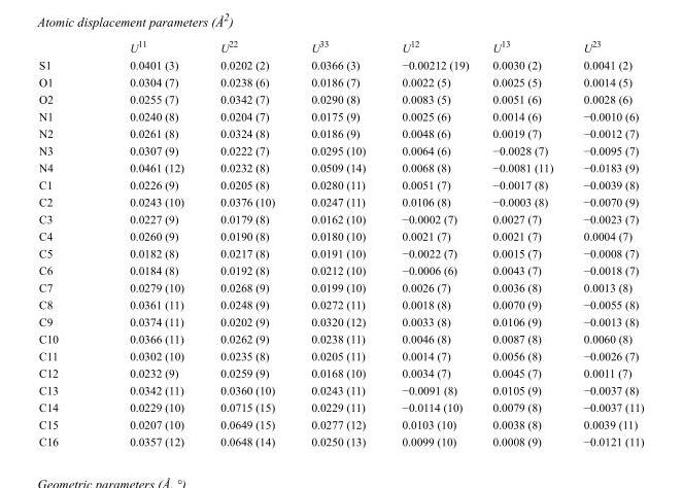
<table><thead><tr><td></td><td>U<sup>11</sup></td><td>U<sup>22</sup></td><td>U<sup>33</sup></td><td>U<sup>12</sup></td><td>U<sup>13</sup></td><td>U<sup>23</sup></td></tr></thead><tbody><tr><td>S1</td><td>0.0401 (3)</td><td>0.0202 (2)</td><td>0.0366 (3)</td><td>−0.00212 (19)</td><td>0.0030 (2)</td><td>0.0041 (2)</td></tr><tr><td>O1</td><td>0.0304 (7)</td><td>0.0238 (6)</td><td>0.0186 (7)</td><td>0.0022 (5)</td><td>0.0025 (5)</td><td>0.0014 (5)</td></tr><tr><td>O2</td><td>0.0255 (7)</td><td>0.0342 (7)</td><td>0.0290 (8)</td><td>0.0083 (5)</td><td>0.0051 (6)</td><td>0.0028 (6)</td></tr><tr><td>N1</td><td>0.0240 (8)</td><td>0.0204 (7)</td><td>0.0175 (9)</td><td>0.0025 (6)</td><td>0.0014 (6)</td><td>−0.0010 (6)</td></tr><tr><td>N2</td><td>0.0261 (8)</td><td>0.0324 (8)</td><td>0.0186 (9)</td><td>0.0048 (6)</td><td>0.0019 (7)</td><td>−0.0012 (7)</td></tr><tr><td>N3</td><td>0.0307 (9)</td><td>0.0222 (7)</td><td>0.0295 (10)</td><td>0.0064 (6)</td><td>−0.0028 (7)</td><td>−0.0095 (7)</td></tr><tr><td>N4</td><td>0.0461 (12)</td><td>0.0232 (8)</td><td>0.0509 (14)</td><td>0.0068 (8)</td><td>−0.0081 (11)</td><td>−0.0183 (9)</td></tr><tr><td>C1</td><td>0.0226 (9)</td><td>0.0205 (8)</td><td>0.0280 (11)</td><td>0.0051 (7)</td><td>−0.0017 (8)</td><td>−0.0039 (8)</td></tr><tr><td>C2</td><td>0.0243 (10)</td><td>0.0376 (10)</td><td>0.0247 (11)</td><td>0.0106 (8)</td><td>−0.0003 (8)</td><td>−0.0070 (9)</td></tr><tr><td>C3</td><td>0.0227 (9)</td><td>0.0179 (8)</td><td>0.0162 (10)</td><td>−0.0002 (7)</td><td>0.0027 (7)</td><td>−0.0023 (7)</td></tr><tr><td>C4</td><td>0.0260 (9)</td><td>0.0190 (8)</td><td>0.0180 (10)</td><td>0.0021 (7)</td><td>0.0021 (7)</td><td>0.0004 (7)</td></tr><tr><td>C5</td><td>0.0182 (8)</td><td>0.0217 (8)</td><td>0.0191 (10)</td><td>−0.0022 (7)</td><td>0.0015 (7)</td><td>−0.0008 (7)</td></tr><tr><td>C6</td><td>0.0184 (8)</td><td>0.0192 (8)</td><td>0.0212 (10)</td><td>−0.0006 (6)</td><td>0.0043 (7)</td><td>−0.0018 (7)</td></tr><tr><td>C7</td><td>0.0279 (10)</td><td>0.0268 (9)</td><td>0.0199 (10)</td><td>0.0026 (7)</td><td>0.0036 (8)</td><td>0.0013 (8)</td></tr><tr><td>C8</td><td>0.0361 (11)</td><td>0.0248 (9)</td><td>0.0272 (11)</td><td>0.0018 (8)</td><td>0.0070 (9)</td><td>−0.0055 (8)</td></tr><tr><td>C9</td><td>0.0374 (11)</td><td>0.0202 (9)</td><td>0.0320 (12)</td><td>0.0033 (8)</td><td>0.0106 (9)</td><td>−0.0013 (8)</td></tr><tr><td>C10</td><td>0.0366 (11)</td><td>0.0262 (9)</td><td>0.0238 (11)</td><td>0.0046 (8)</td><td>0.0087 (8)</td><td>0.0060 (8)</td></tr><tr><td>C11</td><td>0.0302 (10)</td><td>0.0235 (8)</td><td>0.0205 (11)</td><td>0.0014 (7)</td><td>0.0056 (8)</td><td>−0.0026 (7)</td></tr><tr><td>C12</td><td>0.0232 (9)</td><td>0.0259 (9)</td><td>0.0168 (10)</td><td>0.0034 (7)</td><td>0.0045 (7)</td><td>0.0011 (7)</td></tr><tr><td>C13</td><td>0.0342 (11)</td><td>0.0360 (10)</td><td>0.0243 (11)</td><td>−0.0091 (8)</td><td>0.0105 (9)</td><td>−0.0037 (8)</td></tr><tr><td>C14</td><td>0.0229 (10)</td><td>0.0715 (15)</td><td>0.0229 (11)</td><td>−0.0114 (10)</td><td>0.0079 (8)</td><td>−0.0037 (11)</td></tr><tr><td>C15</td><td>0.0207 (10)</td><td>0.0649 (15)</td><td>0.0277 (12)</td><td>0.0103 (10)</td><td>0.0038 (8)</td><td>0.0039 (11)</td></tr><tr><td>C16</td><td>0.0357 (12)</td><td>0.0648 (14)</td><td>0.0250 (13)</td><td>0.0099 (10)</td><td>0.0008 (9)</td><td>−0.0121 (11)</td></tr></tbody></table>